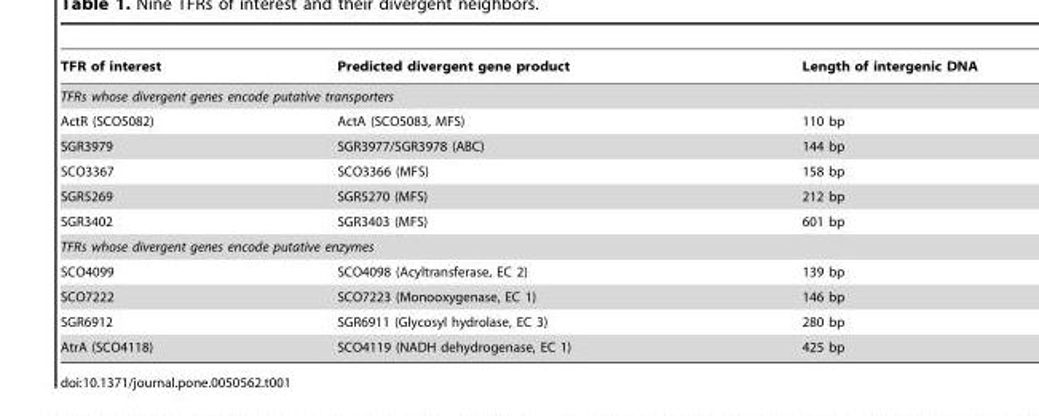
<table><thead><tr><td>TFR of interest</td><td>Predicted divergent gene product</td><td>Length of intergenic DNA</td></tr></thead><tbody><tr><td colspan="3">TFRs whose divergent genes encode putative transporters</td></tr><tr><td>ActR (SCO5082)</td><td>ActA (SCO5083, MFS)</td><td>110 bp</td></tr><tr><td>SGR3979</td><td>SGR3977/SGR3978 (ABC)</td><td>144 bp</td></tr><tr><td>SCO3367</td><td>SCO3366 (MFS)</td><td>158 bp</td></tr><tr><td>SGR5269</td><td>SGR5270 (MFS)</td><td>212 bp</td></tr><tr><td>SGR3402</td><td>SGR3403 (MFS)</td><td>601 bp</td></tr><tr><td colspan="3">TFRs whose divergent genes encode putative enzymes</td></tr><tr><td>SCO4099</td><td>SCO4098 (Acyltransferase, EC 2)</td><td>139 bp</td></tr><tr><td>SCO7222</td><td>SCO7223 (Monooxygenase, EC 1)</td><td>146 bp</td></tr><tr><td>SGR6912</td><td>SGR6911 (Glycosyl hydrolase, EC 3)</td><td>280 bp</td></tr><tr><td>AtrA (SCO4118)</td><td>SCO4119 (NADH dehydrogenase, EC 1)</td><td>425 bp</td></tr></tbody></table>